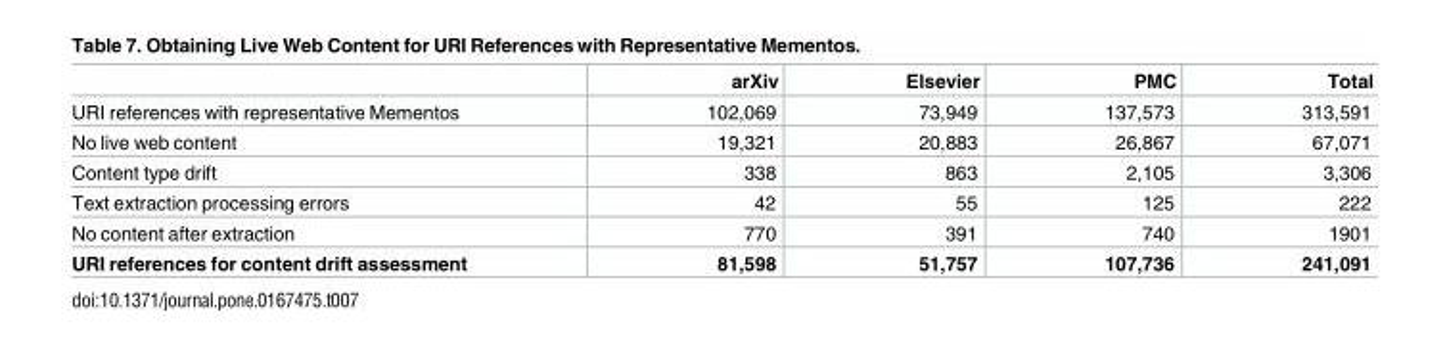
<table><thead><tr><td></td><td>arXiv</td><td>Elsevier</td><td>PMC</td><td>Total</td></tr></thead><tbody><tr><td>URI references with representative Mementos</td><td>102,069</td><td>73,949</td><td>137,573</td><td>313,591</td></tr><tr><td>No live web content</td><td>19,321</td><td>20,883</td><td>26,867</td><td>67,071</td></tr><tr><td>Content type drift</td><td>338</td><td>863</td><td>2,105</td><td>3,306</td></tr><tr><td>Text extraction processing errors</td><td>42</td><td>55</td><td>125</td><td>222</td></tr><tr><td>No content after extraction</td><td>770</td><td>391</td><td>740</td><td>1901</td></tr><tr><td>URI references for content drift assessment</td><td>81,598</td><td>51,757</td><td>107,736</td><td>241,091</td></tr></tbody></table>